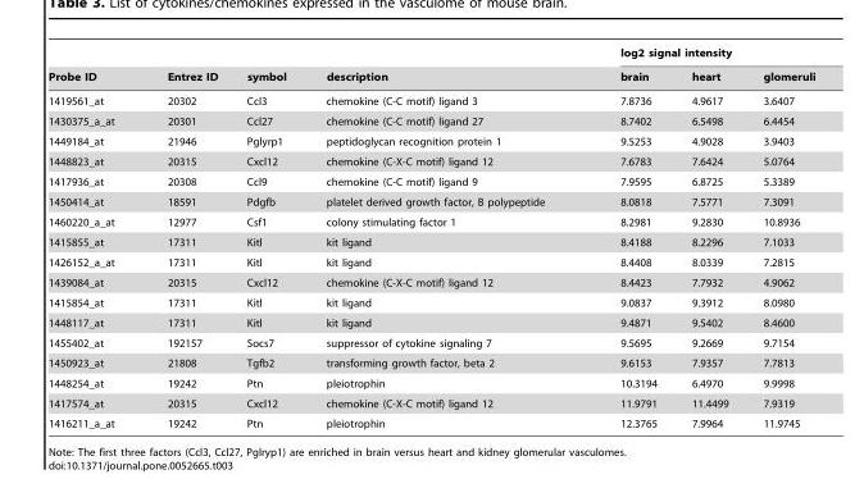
<table><thead><tr><td rowspan="2">Probe ID</td><td rowspan="2">Entrez ID</td><td rowspan="2">symbol</td><td rowspan="2">description</td><td colspan="3">log2 signal intensity</td></tr><tr><td>brain</td><td>heart</td><td>glomeruli</td></tr></thead><tbody><tr><td>1419561_at</td><td>20302</td><td>Ccl3</td><td>chemokine (C-C motif) ligand 3</td><td>7.8736</td><td>4.9617</td><td>3.6407</td></tr><tr><td>1430375_a_at</td><td>20301</td><td>Ccl27</td><td>chemokine (C-C motif) ligand 27</td><td>8.7402</td><td>6.5498</td><td>6.4454</td></tr><tr><td>1449184_at</td><td>21946</td><td>Pglyrp1</td><td>peptidoglycan recognition protein 1</td><td>9.5253</td><td>4.9028</td><td>3.9403</td></tr><tr><td>1448823_at</td><td>20315</td><td>Cxcl12</td><td>chemokine (C-X-C motif) ligand 12</td><td>7.6783</td><td>7.6424</td><td>5.0764</td></tr><tr><td>1417936_at</td><td>20308</td><td>Ccl9</td><td>chemokine (C-C motif) ligand 9</td><td>7.9595</td><td>6.8725</td><td>5.3389</td></tr><tr><td>1450414_at</td><td>18591</td><td>Pdgfb</td><td>platelet derived growth factor, B polypeptide</td><td>8.0818</td><td>7.5771</td><td>7.3091</td></tr><tr><td>1460220_a_at</td><td>12977</td><td>Csf1</td><td>colony stimulating factor 1</td><td>8.2981</td><td>9.2830</td><td>10.8936</td></tr><tr><td>1415855_at</td><td>17311</td><td>Kitl</td><td>kit ligand</td><td>8.4188</td><td>8.2296</td><td>7.1033</td></tr><tr><td>1426152_a_at</td><td>17311</td><td>Kitl</td><td>kit ligand</td><td>8.4408</td><td>8.0339</td><td>7.2815</td></tr><tr><td>1439084_at</td><td>20315</td><td>Cxcl12</td><td>chemokine (C-X-C motif) ligand 12</td><td>8.4423</td><td>7.7932</td><td>4.9062</td></tr><tr><td>1415854_at</td><td>17311</td><td>Kitl</td><td>kit ligand</td><td>9.0837</td><td>9.3912</td><td>8.0980</td></tr><tr><td>1448117_at</td><td>17311</td><td>Kitl</td><td>kit ligand</td><td>9.4871</td><td>9.5402</td><td>8.4600</td></tr><tr><td>1455402_at</td><td>192157</td><td>Socs7</td><td>suppressor of cytokine signaling 7</td><td>9.5695</td><td>9.2669</td><td>9.7154</td></tr><tr><td>1450923_at</td><td>21808</td><td>Tgfb2</td><td>transforming growth factor, beta 2</td><td>9.6153</td><td>7.9357</td><td>7.7813</td></tr><tr><td>1448254_at</td><td>19242</td><td>Ptn</td><td>pleiotrophin</td><td>10.3194</td><td>6.4970</td><td>9.9998</td></tr><tr><td>1417574_at</td><td>20315</td><td>Cxcl12</td><td>chemokine (C-X-C motif) ligand 12</td><td>11.9791</td><td>11.4499</td><td>7.9319</td></tr><tr><td>1416211_a_at</td><td>19242</td><td>Ptn</td><td>pleiotrophin</td><td>12.3765</td><td>7.9964</td><td>11.9745</td></tr></tbody></table>